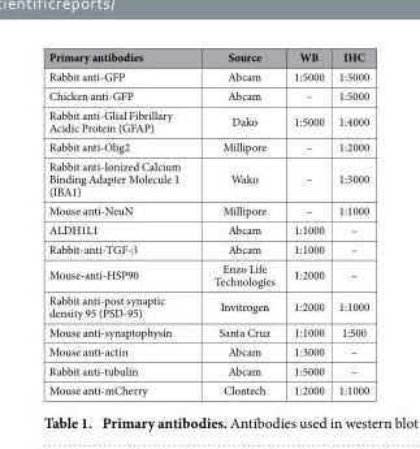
<table><thead><tr><td>Primary antibodies</td><td>Source</td><td>WB</td><td>IHC</td></tr></thead><tbody><tr><td>Rabbit anti-GFP</td><td>Abcam</td><td>1:5000</td><td>1:5000</td></tr><tr><td>Chicken anti-GFP</td><td>Abcam</td><td>–</td><td>1:5000</td></tr><tr><td>Rabbit anti-Glial Fibrillary Acidic Protein (GFAP)</td><td>Dako</td><td>1:5000</td><td>1:4000</td></tr><tr><td>Rabbit anti-Olig2</td><td>Millipore</td><td>–</td><td>1:2000</td></tr><tr><td>Rabbit anti-Ionized Calcium Binding Adapter Molecule 1 (IBA1)</td><td>Wako</td><td>–</td><td>1:3000</td></tr><tr><td>Mouse anti-NeuN</td><td>Millipore</td><td>–</td><td>1:1000</td></tr><tr><td>ALDH1L1</td><td>Abcam</td><td>1:1000</td><td>–</td></tr><tr><td>Rabbit-anti-TGF-β</td><td>Abcam</td><td>1:1000</td><td>–</td></tr><tr><td>Mouse-anti-HSP90</td><td>Enzo Life Technologies</td><td>1:2000</td><td>–</td></tr><tr><td>Rabbit anti-post synaptic density 95 (PSD-95)</td><td>Invitrogen</td><td>1:2000</td><td>1:1000</td></tr><tr><td>Mouse anti-synaptophysin</td><td>Santa Cruz</td><td>1:1000</td><td>1:500</td></tr><tr><td>Mouse anti-actin</td><td>Abcam</td><td>1:3000</td><td>–</td></tr><tr><td>Rabbit anti-tubulin</td><td>Abcam</td><td>1:5000</td><td>–</td></tr><tr><td>Mouse anti-mCherry</td><td>Clontech</td><td>1:2000</td><td>1:1000</td></tr></tbody></table>